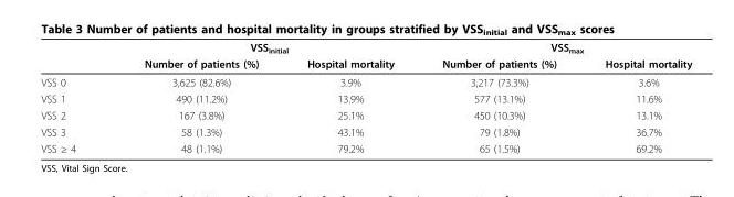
<table><thead><tr><td rowspan="2"></td><td colspan="2">VSS<sub>initial</sub></td><td colspan="2">VSS<sub>max</sub></td></tr><tr><td>Number of patients (%)</td><td>Hospital mortality</td><td>Number of patients (%)</td><td>Hospital mortality</td></tr></thead><tbody><tr><td>VSS 0</td><td>3,625 (82.6%)</td><td>3.9%</td><td>3,217 (73.3%)</td><td>3.6%</td></tr><tr><td>VSS 1</td><td>490 (11.2%)</td><td>13.9%</td><td>577 (13.1%)</td><td>11.6%</td></tr><tr><td>VSS 2</td><td>167 (3.8%)</td><td>25.1%</td><td>450 (10.3%)</td><td>13.1%</td></tr><tr><td>VSS 3</td><td>58 (1.3%)</td><td>43.1%</td><td>79 (1.8%)</td><td>36.7%</td></tr><tr><td>VSS ≥ 4</td><td>48 (1.1%)</td><td>79.2%</td><td>65 (1.5%)</td><td>69.2%</td></tr></tbody></table>